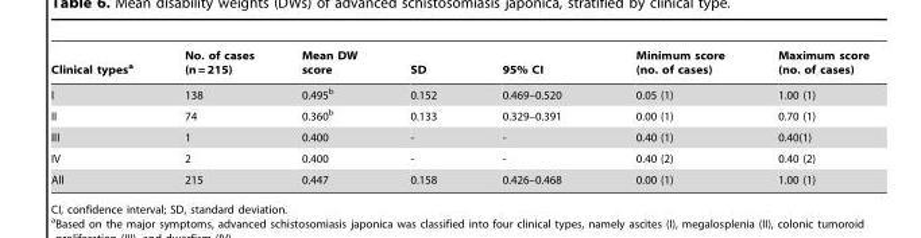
<table><thead><tr><td>Clinical types<sup>a</sup></td><td>No. of cases (n = 215)</td><td>Mean DW score</td><td>SD</td><td>95% CI</td><td>Minimum score (no. of cases)</td><td>Maximum score (no. of cases)</td></tr></thead><tbody><tr><td>I</td><td>138</td><td>0.495<sup>b</sup></td><td>0.152</td><td>0.469–0.520</td><td>0.05 (1)</td><td>1.00 (1)</td></tr><tr><td>II</td><td>74</td><td>0.360<sup>b</sup></td><td>0.133</td><td>0.329–0.391</td><td>0.00 (1)</td><td>0.70 (1)</td></tr><tr><td>III</td><td>1</td><td>0.400</td><td>-</td><td>-</td><td>0.40 (1)</td><td>0.40(1)</td></tr><tr><td>IV</td><td>2</td><td>0.400</td><td>-</td><td>-</td><td>0.40 (2)</td><td>0.40 (2)</td></tr><tr><td>All</td><td>215</td><td>0.447</td><td>0.158</td><td>0.426–0.468</td><td>0.00 (1)</td><td>1.00 (1)</td></tr></tbody></table>